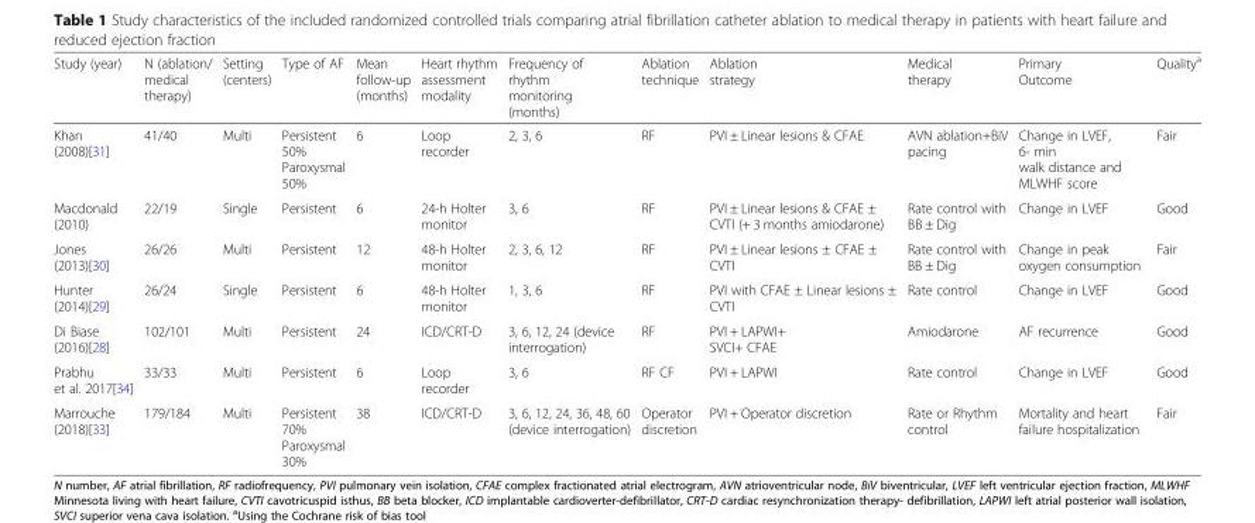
<table><thead><tr><td>Study (year)</td><td>N (ablation/ medical therapy)</td><td>Setting (centers)</td><td>Type of AF</td><td>Mean follow-up (months)</td><td>Heart rhythm assessment modality</td><td>Frequency of rhythm monitoring (months)</td><td>Ablation technique</td><td>Ablation strategy</td><td>Medical therapy</td><td>Primary Outcome</td><td>Quality<sup>a</sup></td></tr></thead><tbody><tr><td>Khan (2008)[31]</td><td>41/40</td><td>Multi</td><td>Persistent 50% Paroxysmal 50%</td><td>6</td><td>Loop recorder</td><td>2, 3, 6</td><td>RF</td><td>PVI ± Linear lesions &amp; CFAE</td><td>AVN ablation+BiV pacing</td><td>Change in LVEF, 6- min walk distance and MLWHF score</td><td>Fair</td></tr><tr><td>Macdonald (2010)</td><td>22/19</td><td>Single</td><td>Persistent</td><td>6</td><td>24-h Holter monitor</td><td>3, 6</td><td>RF</td><td>PVI ± Linear lesions &amp; CFAE ± CVTI (+ 3 months amiodarone)</td><td>Rate control with BB ± Dig</td><td>Change in LVEF</td><td>Good</td></tr><tr><td>Jones (2013)[30]</td><td>26/26</td><td>Multi</td><td>Persistent</td><td>12</td><td>48-h Holter monitor</td><td>2, 3, 6, 12</td><td>RF</td><td>PVI ± Linear lesions ± CFAE ± CVTI</td><td>Rate control with BB ± Dig</td><td>Change in peak oxygen consumption</td><td>Fair</td></tr><tr><td>Hunter (2014)[29]</td><td>26/24</td><td>Single</td><td>Persistent</td><td>6</td><td>48-h Holter monitor</td><td>1, 3, 6</td><td>RF</td><td>PVI with CFAE ± Linear lesions ± CVTI</td><td>Rate control</td><td>Change in LVEF</td><td>Good</td></tr><tr><td>Di Biase (2016)[28]</td><td>102/101</td><td>Multi</td><td>Persistent</td><td>24</td><td>ICD/CRT-D</td><td>3, 6, 12, 24 (device interrogation)</td><td>RF</td><td>PVI + LAPWI+ SVCI+ CFAE</td><td>Amiodarone</td><td>AF recurrence</td><td>Good</td></tr><tr><td>Prabhu et al. 2017[34]</td><td>33/33</td><td>Multi</td><td>Persistent</td><td>6</td><td>Loop recorder</td><td>3, 6</td><td>RF CF</td><td>PVI + LAPWI</td><td>Rate control</td><td>Change in LVEF</td><td>Good</td></tr><tr><td>Marrouche (2018)[33]</td><td>179/184</td><td>Multi</td><td>Persistent 70% Paroxysmal 30%</td><td>38</td><td>ICD/CRT-D</td><td>3, 6, 12, 24, 36, 48, 60 (device interrogation)</td><td>Operator discretion</td><td>PVI + Operator discretion</td><td>Rate or Rhythm control</td><td>Mortality and heart failure hospitalization</td><td>Fair</td></tr></tbody></table>